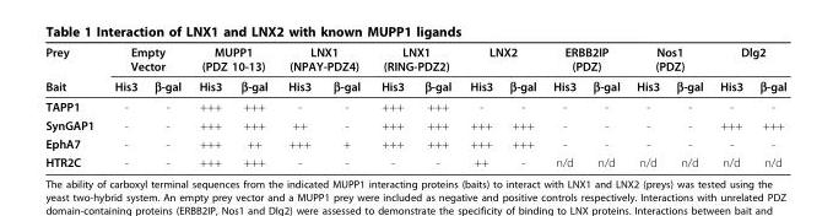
<table><thead><tr><td rowspan="2">Prey Bait</td><td colspan="2">Empty Vector</td><td colspan="2">MUPP1 (PDZ 10-13)</td><td colspan="2">LNX1 (NPAY-PDZ4)</td><td colspan="2">LNX1 (RING-PDZ2)</td><td colspan="2">LNX2</td><td colspan="2">ERBB2IP (PDZ)</td><td colspan="2">Nos1 (PDZ)</td><td colspan="2">Dlg2</td></tr><tr><td>His3</td><td>β-gal</td><td>His3</td><td>β-gal</td><td>His3</td><td>β-gal</td><td>His3</td><td>β-gal</td><td>His3</td><td>β-gal</td><td>His3</td><td>β-gal</td><td>His3</td><td>β-gal</td><td>His3</td><td>β-gal</td></tr></thead><tbody><tr><td>TAPP1</td><td>-</td><td>-</td><td>+++</td><td>+++</td><td>-</td><td>-</td><td>+++</td><td>+++</td><td>-</td><td>-</td><td>-</td><td>-</td><td>-</td><td>-</td><td>-</td><td>-</td></tr><tr><td>SynGAP1</td><td>-</td><td>-</td><td>+++</td><td>+++</td><td>++</td><td>-</td><td>+++</td><td>+++</td><td>+++</td><td>+++</td><td>-</td><td>-</td><td>-</td><td>-</td><td>+++</td><td>+++</td></tr><tr><td>EphA7</td><td>-</td><td>-</td><td>+++</td><td>++</td><td>+++</td><td>+</td><td>+++</td><td>+++</td><td>+++</td><td>+++</td><td>-</td><td>-</td><td>-</td><td>-</td><td>-</td><td>-</td></tr><tr><td>HTR2C</td><td>-</td><td>-</td><td>+++</td><td>+++</td><td>-</td><td>-</td><td>-</td><td>-</td><td>++</td><td>-</td><td>n/d</td><td>n/d</td><td>n/d</td><td>n/d</td><td>n/d</td><td>n/d</td></tr></tbody></table>